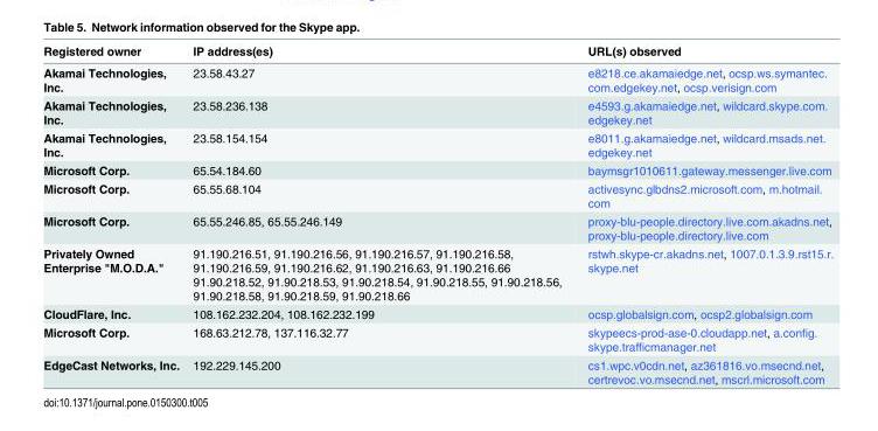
<table><thead><tr><td>Registered owner</td><td>IP address(es)</td><td>URL(s) observed</td></tr></thead><tbody><tr><td>Akamai Technologies, Inc.</td><td>23.58.43.27</td><td>e8218.ce.akamaiedge.net, ocsp.ws.symantec. com.edgekey.net, ocsp.verisign.com</td></tr><tr><td>Akamai Technologies, Inc.</td><td>23.58.236.138</td><td>e4593.g.akamaiedge.net, wildcard.skype.com. edgekey.net</td></tr><tr><td>Akamai Technologies, Inc.</td><td>23.58.154.154</td><td>e8011.g.akamaiedge.net, wildcard.msads.net. edgekey.net</td></tr><tr><td>Microsoft Corp.</td><td>65.54.184.60</td><td>baymsgr1010611.gateway.messenger.live.com</td></tr><tr><td>Microsoft Corp.</td><td>65.55.68.104</td><td>activesync.glbdns2.microsoft.com, m.hotmail. com</td></tr><tr><td>Microsoft Corp.</td><td>65.55.246.85, 65.55.246.149</td><td>proxy-blu-people.directory.live.com.akadns.net, proxy-blu-people.directory.live.com</td></tr><tr><td>Privately Owned Enterprise &quot;M.O.D.A.&quot;</td><td>91.190.216.51, 91.190.216.56, 91.190.216.57, 91.190.216.58, 91.190.216.59, 91.190.216.62, 91.190.216.63, 91.190.216.66 91.90.218.52, 91.90.218.53, 91.90.218.54, 91.90.218.55, 91.90.218.56, 91.90.218.58, 91.90.218.59, 91.90.218.66</td><td>rstwh.skype-cr.akadns.net, 1007.0.1.3.9.rst15.r. skype.net</td></tr><tr><td>CloudFlare, Inc.</td><td>108.162.232.204, 108.162.232.199</td><td>ocsp.globalsign.com, ocsp2.globalsign.com</td></tr><tr><td>Microsoft Corp.</td><td>168.63.212.78, 137.116.32.77</td><td>skypeecs-prod-ase-0.cloudapp.net, a.config. skype.trafficmanager.net</td></tr><tr><td>EdgeCast Networks, Inc.</td><td>192.229.145.200</td><td>cs1.wpc.v0cdn.net, az361816.vo.msecnd.net, certrevoc.vo.msecnd.net, mscrl.microsoft.com</td></tr></tbody></table>